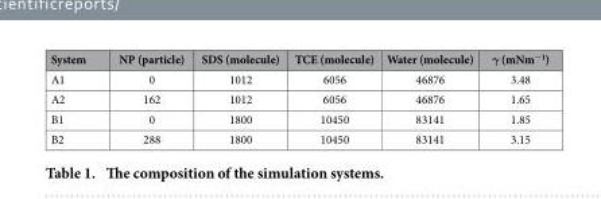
<table><thead><tr><td>System</td><td>NP (particle)</td><td>SDS (molecule)</td><td>TCE (molecule)</td><td>Water (molecule)</td><td>γ (mNm<sup>−1</sup>)</td></tr></thead><tbody><tr><td>A1</td><td>0</td><td>1012</td><td>6056</td><td>46876</td><td>3.48</td></tr><tr><td>A2</td><td>162</td><td>1012</td><td>6056</td><td>46876</td><td>1.65</td></tr><tr><td>B1</td><td>0</td><td>1800</td><td>10450</td><td>83141</td><td>1.85</td></tr><tr><td>B2</td><td>288</td><td>1800</td><td>10450</td><td>83141</td><td>3.15</td></tr></tbody></table>